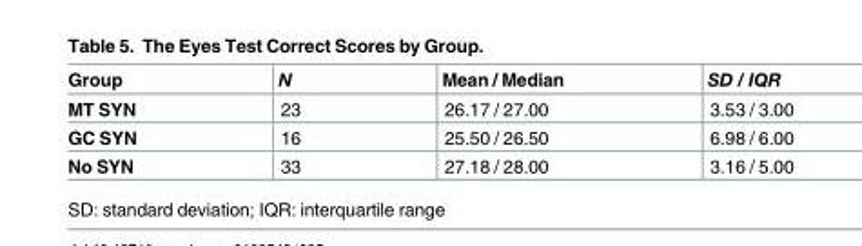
<table><thead><tr><td>Group</td><td>N</td><td>Mean / Median</td><td>SD / IQR</td></tr></thead><tbody><tr><td>MT SYN</td><td>23</td><td>26.17 / 27.00</td><td>3.53 / 3.00</td></tr><tr><td>GC SYN</td><td>16</td><td>25.50 / 26.50</td><td>6.98 / 6.00</td></tr><tr><td>No SYN</td><td>33</td><td>27.18 / 28.00</td><td>3.16 / 5.00</td></tr></tbody></table>